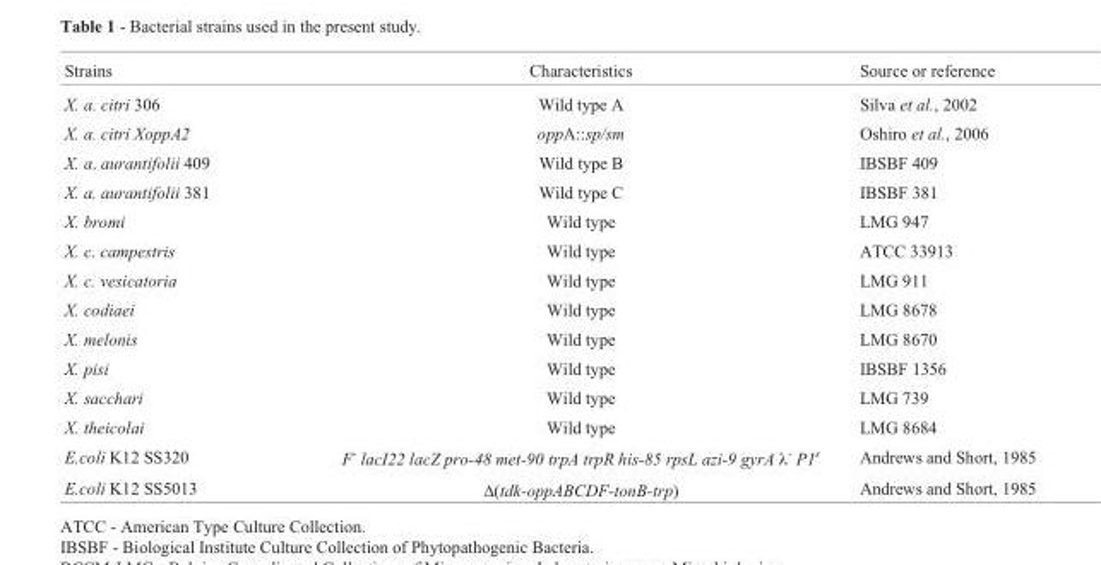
<table><thead><tr><td>Strains</td><td>Characteristics</td><td>Source or reference</td></tr></thead><tbody><tr><td>X. a. citri 306</td><td>Wild type A</td><td>Silva et al., 2002</td></tr><tr><td>X. a. citri XoppA2</td><td>oppA::sp/sm</td><td>Oshiro et al., 2006</td></tr><tr><td>X. a. aurantifolii 409</td><td>Wild type B</td><td>IBSBF 409</td></tr><tr><td>X. a. aurantifolii 381</td><td>Wild type C</td><td>IBSBF 381</td></tr><tr><td>X. bromi</td><td>Wild type</td><td>LMG 947</td></tr><tr><td>X. c. campestris</td><td>Wild type</td><td>ATCC 33913</td></tr><tr><td>X. c. vesicatoria</td><td>Wild type</td><td>LMG 911</td></tr><tr><td>X. codiaei</td><td>Wild type</td><td>LMG 8678</td></tr><tr><td>X. melonis</td><td>Wild type</td><td>LMG 8670</td></tr><tr><td>X. pisi</td><td>Wild type</td><td>IBSBF 1356</td></tr><tr><td>X. sacchari</td><td>Wild type</td><td>LMG 739</td></tr><tr><td>X. theicolai</td><td>Wild type</td><td>LMG 8684</td></tr><tr><td>E.coli K12 SS320</td><td>F<sup>-</sup> lacI22 lacZ pro-48 met-90 trpA trpR his-85 rpsL azi-9 gyrA λ<sup>-</sup> P1<sup>s</sup></td><td>Andrews and Short, 1985</td></tr><tr><td>E.coli K12 SS5013</td><td>Δ(tdk-oppABCDF-tonB-trp)</td><td>Andrews and Short, 1985</td></tr></tbody></table>